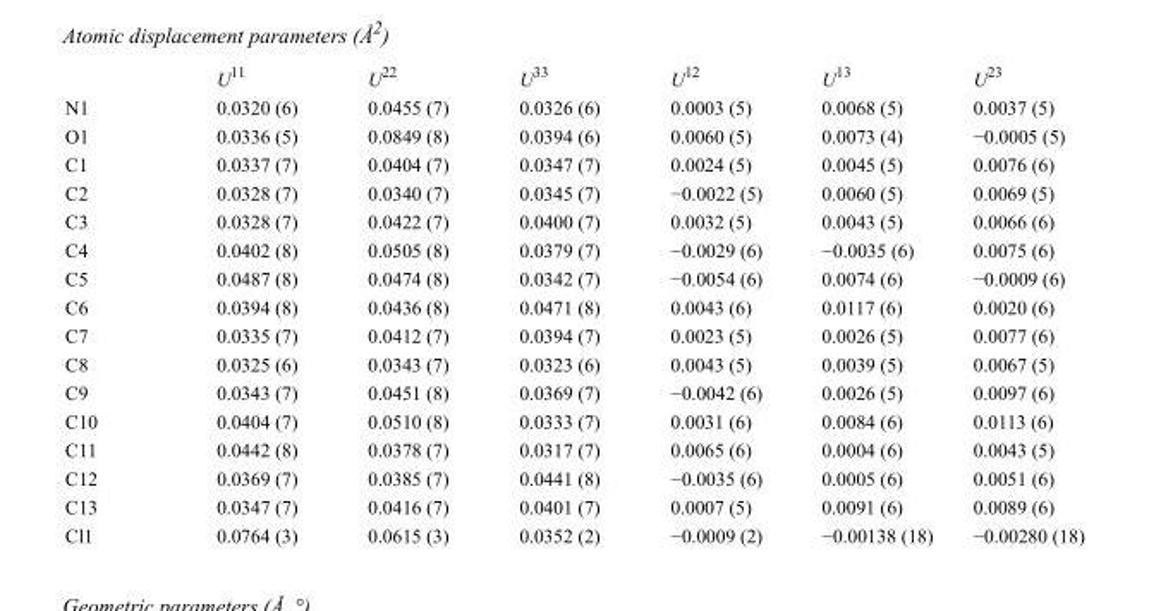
<table><thead><tr><td></td><td>U<sup>11</sup></td><td>U<sup>22</sup></td><td>U<sup>33</sup></td><td>U<sup>12</sup></td><td>U<sup>13</sup></td><td>U<sup>23</sup></td></tr></thead><tbody><tr><td>N1</td><td>0.0320 (6)</td><td>0.0455 (7)</td><td>0.0326 (6)</td><td>0.0003 (5)</td><td>0.0068 (5)</td><td>0.0037 (5)</td></tr><tr><td>O1</td><td>0.0336 (5)</td><td>0.0849 (8)</td><td>0.0394 (6)</td><td>0.0060 (5)</td><td>0.0073 (4)</td><td>−0.0005 (5)</td></tr><tr><td>C1</td><td>0.0337 (7)</td><td>0.0404 (7)</td><td>0.0347 (7)</td><td>0.0024 (5)</td><td>0.0045 (5)</td><td>0.0076 (6)</td></tr><tr><td>C2</td><td>0.0328 (7)</td><td>0.0340 (7)</td><td>0.0345 (7)</td><td>−0.0022 (5)</td><td>0.0060 (5)</td><td>0.0069 (5)</td></tr><tr><td>C3</td><td>0.0328 (7)</td><td>0.0422 (7)</td><td>0.0400 (7)</td><td>0.0032 (5)</td><td>0.0043 (5)</td><td>0.0066 (6)</td></tr><tr><td>C4</td><td>0.0402 (8)</td><td>0.0505 (8)</td><td>0.0379 (7)</td><td>−0.0029 (6)</td><td>−0.0035 (6)</td><td>0.0075 (6)</td></tr><tr><td>C5</td><td>0.0487 (8)</td><td>0.0474 (8)</td><td>0.0342 (7)</td><td>−0.0054 (6)</td><td>0.0074 (6)</td><td>−0.0009 (6)</td></tr><tr><td>C6</td><td>0.0394 (8)</td><td>0.0436 (8)</td><td>0.0471 (8)</td><td>0.0043 (6)</td><td>0.0117 (6)</td><td>0.0020 (6)</td></tr><tr><td>C7</td><td>0.0335 (7)</td><td>0.0412 (7)</td><td>0.0394 (7)</td><td>0.0023 (5)</td><td>0.0026 (5)</td><td>0.0077 (6)</td></tr><tr><td>C8</td><td>0.0325 (6)</td><td>0.0343 (7)</td><td>0.0323 (6)</td><td>0.0043 (5)</td><td>0.0039 (5)</td><td>0.0067 (5)</td></tr><tr><td>C9</td><td>0.0343 (7)</td><td>0.0451 (8)</td><td>0.0369 (7)</td><td>−0.0042 (6)</td><td>0.0026 (5)</td><td>0.0097 (6)</td></tr><tr><td>C10</td><td>0.0404 (7)</td><td>0.0510 (8)</td><td>0.0333 (7)</td><td>0.0031 (6)</td><td>0.0084 (6)</td><td>0.0113 (6)</td></tr><tr><td>C11</td><td>0.0442 (8)</td><td>0.0378 (7)</td><td>0.0317 (7)</td><td>0.0065 (6)</td><td>0.0004 (6)</td><td>0.0043 (5)</td></tr><tr><td>C12</td><td>0.0369 (7)</td><td>0.0385 (7)</td><td>0.0441 (8)</td><td>−0.0035 (6)</td><td>0.0005 (6)</td><td>0.0051 (6)</td></tr><tr><td>C13</td><td>0.0347 (7)</td><td>0.0416 (7)</td><td>0.0401 (7)</td><td>0.0007 (5)</td><td>0.0091 (6)</td><td>0.0089 (6)</td></tr><tr><td>Cl1</td><td>0.0764 (3)</td><td>0.0615 (3)</td><td>0.0352 (2)</td><td>−0.0009 (2)</td><td>−0.00138 (18)</td><td>−0.00280 (18)</td></tr></tbody></table>